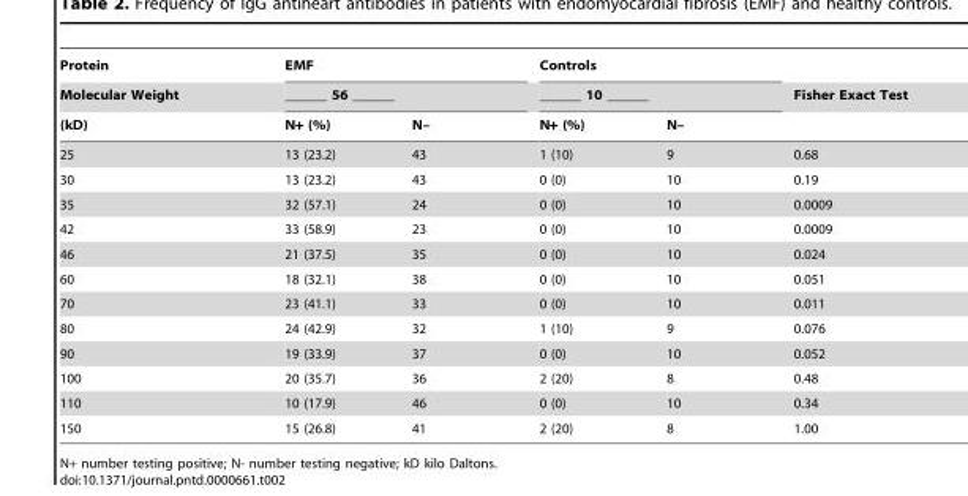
<table><thead><tr><td rowspan="3">Protein Molecular Weight (kD)</td><td rowspan="2" colspan="2">EMF ______ 56 ______</td><td rowspan="2" colspan="2">Controls ______ 10 ______</td><td rowspan="3">Fisher Exact Test</td></tr><tr></tr><tr><td>N+ (%)</td><td>N–</td><td>N+ (%)</td><td>N–</td></tr></thead><tbody><tr><td>25</td><td>13 (23.2)</td><td>43</td><td>1 (10)</td><td>9</td><td>0.68</td></tr><tr><td>30</td><td>13 (23.2)</td><td>43</td><td>0 (0)</td><td>10</td><td>0.19</td></tr><tr><td>35</td><td>32 (57.1)</td><td>24</td><td>0 (0)</td><td>10</td><td>0.0009</td></tr><tr><td>42</td><td>33 (58.9)</td><td>23</td><td>0 (0)</td><td>10</td><td>0.0009</td></tr><tr><td>46</td><td>21 (37.5)</td><td>35</td><td>0 (0)</td><td>10</td><td>0.024</td></tr><tr><td>60</td><td>18 (32.1)</td><td>38</td><td>0 (0)</td><td>10</td><td>0.051</td></tr><tr><td>70</td><td>23 (41.1)</td><td>33</td><td>0 (0)</td><td>10</td><td>0.011</td></tr><tr><td>80</td><td>24 (42.9)</td><td>32</td><td>1 (10)</td><td>9</td><td>0.076</td></tr><tr><td>90</td><td>19 (33.9)</td><td>37</td><td>0 (0)</td><td>10</td><td>0.052</td></tr><tr><td>100</td><td>20 (35.7)</td><td>36</td><td>2 (20)</td><td>8</td><td>0.48</td></tr><tr><td>110</td><td>10 (17.9)</td><td>46</td><td>0 (0)</td><td>10</td><td>0.34</td></tr><tr><td>150</td><td>15 (26.8)</td><td>41</td><td>2 (20)</td><td>8</td><td>1.00</td></tr></tbody></table>